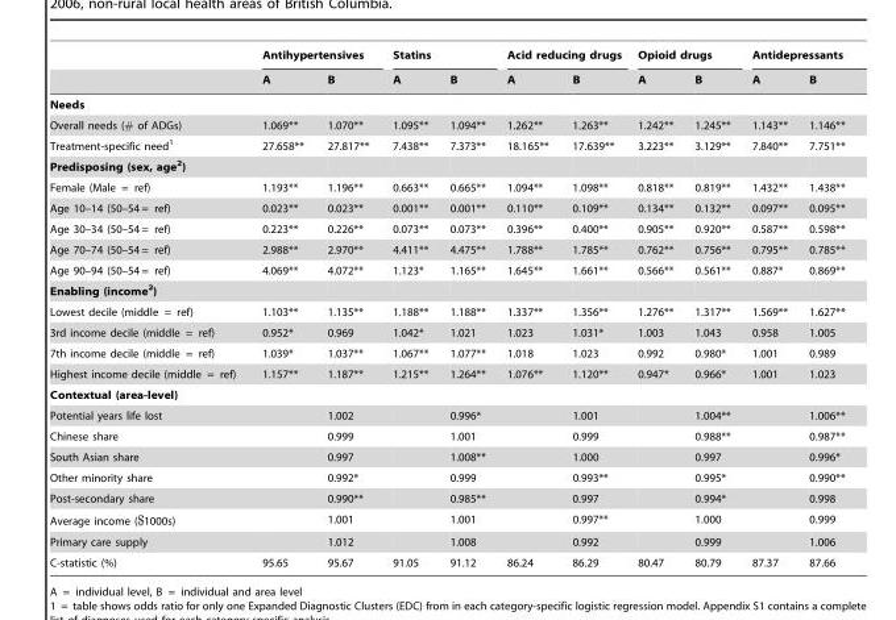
<table><thead><tr><td rowspan="2"></td><td colspan="2">Antihypertensives</td><td colspan="2">Statins</td><td colspan="2">Acid reducing drugs</td><td colspan="2">Opioid drugs</td><td colspan="2">Antidepressants</td></tr><tr><td>A</td><td>B</td><td>A</td><td>B</td><td>A</td><td>B</td><td>A</td><td>B</td><td>A</td><td>B</td></tr></thead><tbody><tr><td colspan="11">Needs</td></tr><tr><td>Overall needs (# of ADGs)</td><td>1.069**</td><td>1.070**</td><td>1.095**</td><td>1.094**</td><td>1.262**</td><td>1.263**</td><td>1.242**</td><td>1.245**</td><td>1.143**</td><td>1.146**</td></tr><tr><td>Treatment-specific need<sup>1</sup></td><td>27.658**</td><td>27.817**</td><td>7.438**</td><td>7.373**</td><td>18.165**</td><td>17.639**</td><td>3.223**</td><td>3.129**</td><td>7.840**</td><td>7.751**</td></tr><tr><td colspan="11">Predisposing (sex, age2)</td></tr><tr><td>Female (Male = ref)</td><td>1.193**</td><td>1.196**</td><td>0.663**</td><td>0.665**</td><td>1.094**</td><td>1.098**</td><td>0.818**</td><td>0.819**</td><td>1.432**</td><td>1.438**</td></tr><tr><td>Age 10–14 (50–54 = ref)</td><td>0.023**</td><td>0.023**</td><td>0.001**</td><td>0.001**</td><td>0.110**</td><td>0.109**</td><td>0.134**</td><td>0.132**</td><td>0.097**</td><td>0.095**</td></tr><tr><td>Age 30–34 (50–54 = ref)</td><td>0.223**</td><td>0.226**</td><td>0.073**</td><td>0.073**</td><td>0.396**</td><td>0.400**</td><td>0.905**</td><td>0.920**</td><td>0.587**</td><td>0.598**</td></tr><tr><td>Age 70–74 (50–54 = ref)</td><td>2.988**</td><td>2.970**</td><td>4.411**</td><td>4.475**</td><td>1.788**</td><td>1.785**</td><td>0.762**</td><td>0.756**</td><td>0.795**</td><td>0.785**</td></tr><tr><td>Age 90–94 (50–54 = ref)</td><td>4.069**</td><td>4.072**</td><td>1.123*</td><td>1.165**</td><td>1.645**</td><td>1.661**</td><td>0.566**</td><td>0.561**</td><td>0.887*</td><td>0.869**</td></tr><tr><td colspan="11">Enabling (income2)</td></tr><tr><td>Lowest decile (middle = ref)</td><td>1.103**</td><td>1.135**</td><td>1.188**</td><td>1.188**</td><td>1.337**</td><td>1.356**</td><td>1.276**</td><td>1.317**</td><td>1.569**</td><td>1.627**</td></tr><tr><td>3rd income decile (middle = ref)</td><td>0.952*</td><td>0.969</td><td>1.042*</td><td>1.021</td><td>1.023</td><td>1.031*</td><td>1.003</td><td>1.043</td><td>0.958</td><td>1.005</td></tr><tr><td>7th income decile (middle = ref)</td><td>1.039*</td><td>1.037**</td><td>1.067**</td><td>1.077**</td><td>1.018</td><td>1.023</td><td>0.992</td><td>0.980*</td><td>1.001</td><td>0.989</td></tr><tr><td>Highest income decile (middle = ref)</td><td>1.157**</td><td>1.187**</td><td>1.215**</td><td>1.264**</td><td>1.076**</td><td>1.120**</td><td>0.947*</td><td>0.966*</td><td>1.001</td><td>1.023</td></tr><tr><td colspan="11">Contextual (area-level)</td></tr><tr><td>Potential years life lost</td><td></td><td>1.002</td><td></td><td>0.996*</td><td></td><td>1.001</td><td></td><td>1.004**</td><td></td><td>1.006**</td></tr><tr><td>Chinese share</td><td></td><td>0.999</td><td></td><td>1.001</td><td></td><td>0.999</td><td></td><td>0.988**</td><td></td><td>0.987**</td></tr><tr><td>South Asian share</td><td></td><td>0.997</td><td></td><td>1.008**</td><td></td><td>1.000</td><td></td><td>0.997</td><td></td><td>0.996*</td></tr><tr><td>Other minority share</td><td></td><td>0.992*</td><td></td><td>0.999</td><td></td><td>0.993**</td><td></td><td>0.995*</td><td></td><td>0.990**</td></tr><tr><td>Post-secondary share</td><td></td><td>0.990**</td><td></td><td>0.985**</td><td></td><td>0.997</td><td></td><td>0.994*</td><td></td><td>0.998</td></tr><tr><td>Average income ($1000s)</td><td></td><td>1.001</td><td></td><td>1.001</td><td></td><td>0.997**</td><td></td><td>1.000</td><td></td><td>0.999</td></tr><tr><td>Primary care supply</td><td></td><td>1.012</td><td></td><td>1.008</td><td></td><td>0.992</td><td></td><td>0.999</td><td></td><td>1.006</td></tr><tr><td>C-statistic (%)</td><td>95.65</td><td>95.67</td><td>91.05</td><td>91.12</td><td>86.24</td><td>86.29</td><td>80.47</td><td>80.79</td><td>87.37</td><td>87.66</td></tr></tbody></table>